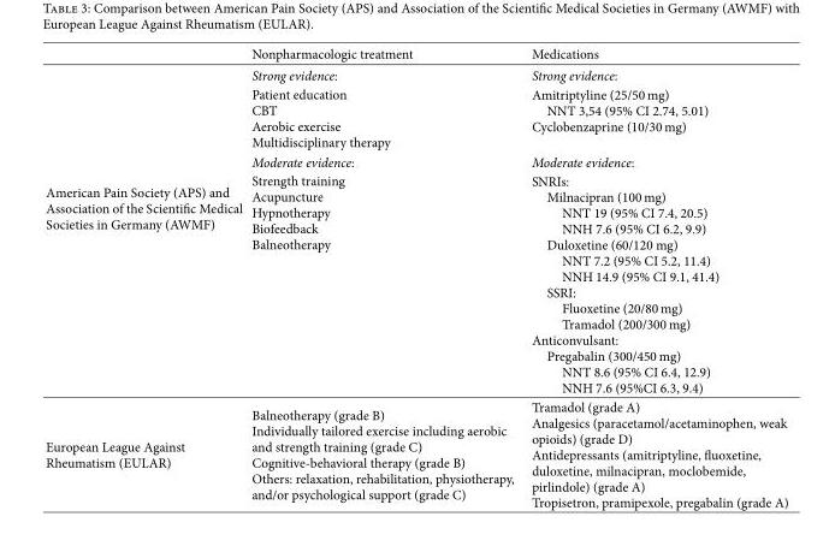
<table><thead><tr><td></td><td>Nonpharmacologic treatment</td><td>Medications</td></tr></thead><tbody><tr><td rowspan="4">American Pain Society (APS) and Association of the Scienti�c Medical Societies in Germany (AWMF)</td><td>Strong evidence:</td><td>Strong evidence:</td></tr><tr><td>Patient education CBT Aerobic exercise Multidisciplinary therapy</td><td>Amitriptyline (25/50 mg) NNT 3,54 (95% CI 2.74, 5.01) Cyclobenzaprine (10/30 mg)</td></tr><tr><td>Moderate evidence:</td><td>Moderate evidence:</td></tr><tr><td>Strength training Acupuncture Hypnotherapy Biofeedback Balneotherapy</td><td>SNRIs: Milnacipran (100 mg) NNT 19 (95% CI 7.4, 20.5) NNH 7.6 (95% CI 6.2, 9.9) Duloxetine (60/120 mg) NNT 7.2 (95% CI 5.2, 11.4) NNH 14.9 (95% CI 9.1, 41.4) SSRI: Fluoxetine (20/80 mg) Tramadol (200/300 mg) Anticonvulsant: Pregabalin (300/450 mg) NNT 8.6 (95% CI 6.4, 12.9) NNH 7.6 (95%CI 6.3, 9.4)</td></tr><tr><td>European League Against Rheumatism (EULAR)</td><td>Balneotherapy (grade B) Individually tailored exercise including aerobic and strength training (grade C) Cognitive-behavioral therapy (grade B) Others: relaxation, rehabilitation, physiotherapy, and/or psychological support (grade C)</td><td>Tramadol (grade A) Analgesics (paracetamol/acetaminophen, weak opioids) (grade D) Antidepressants (amitriptyline, �uoxetine, duloxetine, milnacipran, moclobemide, pirlindole) (grade A) Tropisetron, pramipexole, pregabalin (grade A)</td></tr></tbody></table>